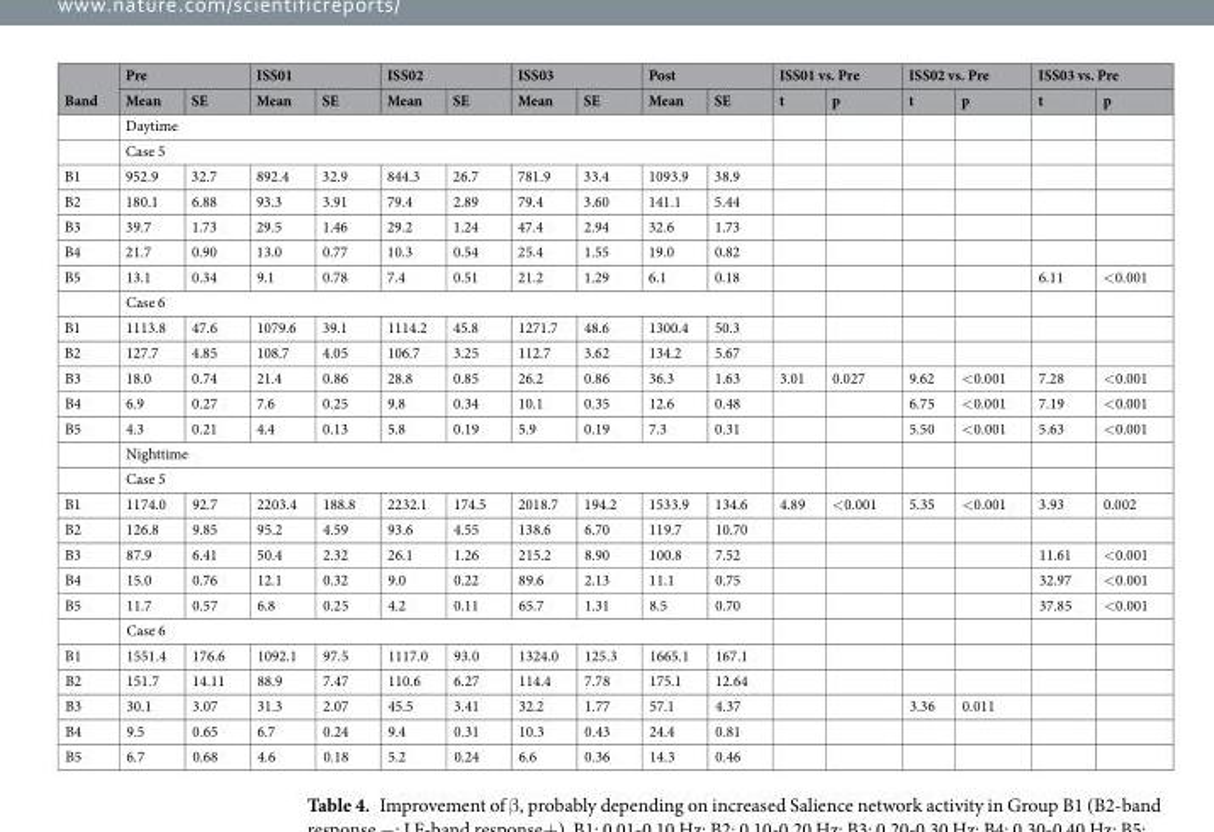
<table><thead><tr><td rowspan="2">Band</td><td colspan="2">Pre</td><td colspan="2">ISS01</td><td colspan="2">ISS02</td><td colspan="2">ISS03</td><td colspan="2">Post</td><td colspan="2">ISS01 vs. Pre</td><td colspan="2">ISS02 vs. Pre</td><td colspan="2">ISS03 vs. Pre</td></tr><tr><td>Mean</td><td>SE</td><td>Mean</td><td>SE</td><td>Mean</td><td>SE</td><td>Mean</td><td>SE</td><td>Mean</td><td>SE</td><td>t</td><td>p</td><td>t</td><td>p</td><td>t</td><td>p</td></tr></thead><tbody><tr><td></td><td colspan="10">Daytime</td><td></td><td></td><td></td><td></td><td></td><td></td></tr><tr><td></td><td colspan="10">Case 5</td><td></td><td></td><td></td><td></td><td></td><td></td></tr><tr><td>B1</td><td>952.9</td><td>32.7</td><td>892.4</td><td>32.9</td><td>844.3</td><td>26.7</td><td>781.9</td><td>33.4</td><td>1093.9</td><td>38.9</td><td></td><td></td><td></td><td></td><td></td><td></td></tr><tr><td>B2</td><td>180.1</td><td>6.88</td><td>93.3</td><td>3.91</td><td>79.4</td><td>2.89</td><td>79.4</td><td>3.60</td><td>141.1</td><td>5.44</td><td></td><td></td><td></td><td></td><td></td><td></td></tr><tr><td>B3</td><td>39.7</td><td>1.73</td><td>29.5</td><td>1.46</td><td>29.2</td><td>1.24</td><td>47.4</td><td>2.94</td><td>32.6</td><td>1.73</td><td></td><td></td><td></td><td></td><td></td><td></td></tr><tr><td>B4</td><td>21.7</td><td>0.90</td><td>13.0</td><td>0.77</td><td>10.3</td><td>0.54</td><td>25.4</td><td>1.55</td><td>19.0</td><td>0.82</td><td></td><td></td><td></td><td></td><td></td><td></td></tr><tr><td rowspan="2">B5</td><td>13.1</td><td>0.34</td><td>9.1</td><td>0.78</td><td>7.4</td><td>0.51</td><td>21.2</td><td>1.29</td><td>6.1</td><td>0.18</td><td></td><td></td><td></td><td></td><td>6.11</td><td>&lt;0.001</td></tr><tr><td colspan="10">Case 6</td><td></td><td></td><td></td><td></td><td></td><td></td></tr><tr><td>B1</td><td>1113.8</td><td>47.6</td><td>1079.6</td><td>39.1</td><td>1114.2</td><td>45.8</td><td>1271.7</td><td>48.6</td><td>1300.4</td><td>50.3</td><td></td><td></td><td></td><td></td><td></td><td></td></tr><tr><td>B2</td><td>127.7</td><td>4.85</td><td>108.7</td><td>4.05</td><td>106.7</td><td>3.25</td><td>112.7</td><td>3.62</td><td>134.2</td><td>5.67</td><td></td><td></td><td></td><td></td><td></td><td></td></tr><tr><td>B3</td><td>18.0</td><td>0.74</td><td>21.4</td><td>0.86</td><td>28.8</td><td>0.85</td><td>26.2</td><td>0.86</td><td>36.3</td><td>1.63</td><td>3.01</td><td>0.027</td><td>9.62</td><td>&lt;0.001</td><td>7.28</td><td>&lt;0.001</td></tr><tr><td>B4</td><td>6.9</td><td>0.27</td><td>7.6</td><td>0.25</td><td>9.8</td><td>0.34</td><td>10.1</td><td>0.35</td><td>12.6</td><td>0.48</td><td></td><td></td><td>6.75</td><td>&lt;0.001</td><td>7.19</td><td>&lt;0.001</td></tr><tr><td rowspan="3">B5</td><td>4.3</td><td>0.21</td><td>4.4</td><td>0.13</td><td>5.8</td><td>0.19</td><td>5.9</td><td>0.19</td><td>7.3</td><td>0.31</td><td></td><td></td><td>5.50</td><td>&lt;0.001</td><td>5.63</td><td>&lt;0.001</td></tr><tr><td colspan="10">Nighttime</td><td></td><td></td><td></td><td></td><td></td><td></td></tr><tr><td colspan="10">Case 5</td><td></td><td></td><td></td><td></td><td></td><td></td></tr><tr><td>B1</td><td>1174.0</td><td>92.7</td><td>2203.4</td><td>188.8</td><td>2232.1</td><td>174.5</td><td>2018.7</td><td>194.2</td><td>1533.9</td><td>134.6</td><td>4.89</td><td>&lt;0.001</td><td>5.35</td><td>&lt;0.001</td><td>3.93</td><td>0.002</td></tr><tr><td>B2</td><td>126.8</td><td>9.85</td><td>95.2</td><td>4.59</td><td>93.6</td><td>4.55</td><td>138.6</td><td>6.70</td><td>119.7</td><td>10.70</td><td></td><td></td><td></td><td></td><td></td><td></td></tr><tr><td>B3</td><td>87.9</td><td>6.41</td><td>50.4</td><td>2.32</td><td>26.1</td><td>1.26</td><td>215.2</td><td>8.90</td><td>100.8</td><td>7.52</td><td></td><td></td><td></td><td></td><td>11.61</td><td>&lt;0.001</td></tr><tr><td>B4</td><td>15.0</td><td>0.76</td><td>12.1</td><td>0.32</td><td>9.0</td><td>0.22</td><td>89.6</td><td>2.13</td><td>11.1</td><td>0.75</td><td></td><td></td><td></td><td></td><td>32.97</td><td>&lt;0.001</td></tr><tr><td rowspan="2">B5</td><td>11.7</td><td>0.57</td><td>6.8</td><td>0.25</td><td>4.2</td><td>0.11</td><td>65.7</td><td>1.31</td><td>8.5</td><td>0.70</td><td></td><td></td><td></td><td></td><td>37.85</td><td>&lt;0.001</td></tr><tr><td colspan="10">Case 6</td><td></td><td></td><td></td><td></td><td></td><td></td></tr><tr><td>B1</td><td>1551.4</td><td>176.6</td><td>1092.1</td><td>97.5</td><td>1117.0</td><td>93.0</td><td>1324.0</td><td>125.3</td><td>1665.1</td><td>167.1</td><td></td><td></td><td></td><td></td><td></td><td></td></tr><tr><td>B2</td><td>151.7</td><td>14.11</td><td>88.9</td><td>7.47</td><td>110.6</td><td>6.27</td><td>114.4</td><td>7.78</td><td>175.1</td><td>12.64</td><td></td><td></td><td></td><td></td><td></td><td></td></tr><tr><td>B3</td><td>30.1</td><td>3.07</td><td>31.3</td><td>2.07</td><td>45.5</td><td>3.41</td><td>32.2</td><td>1.77</td><td>57.1</td><td>4.37</td><td></td><td></td><td>3.36</td><td>0.011</td><td></td><td></td></tr><tr><td>B4</td><td>9.5</td><td>0.65</td><td>6.7</td><td>0.24</td><td>9.4</td><td>0.31</td><td>10.3</td><td>0.43</td><td>24.4</td><td>0.81</td><td></td><td></td><td></td><td></td><td></td><td></td></tr><tr><td>B5</td><td>6.7</td><td>0.68</td><td>4.6</td><td>0.18</td><td>5.2</td><td>0.24</td><td>6.6</td><td>0.36</td><td>14.3</td><td>0.46</td><td></td><td></td><td></td><td></td><td></td><td></td></tr></tbody></table>